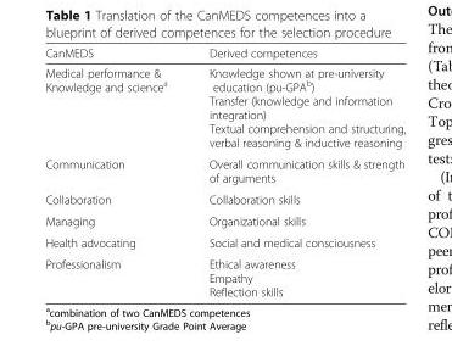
<table><thead><tr><td>CanMEDS</td><td>Derived competences</td></tr></thead><tbody><tr><td>Medical performance &amp; Knowledge and science<sup>a</sup></td><td>Knowledge shown at pre-university education (pu-GPA<sup>b</sup>) Transfer (knowledge and information integration) Textual comprehension and structuring, verbal reasoning &amp; inductive reasoning</td></tr><tr><td>Communication</td><td>Overall communication skills &amp; strength of arguments</td></tr><tr><td>Collaboration</td><td>Collaboration skills</td></tr><tr><td>Managing</td><td>Organizational skills</td></tr><tr><td>Health advocating</td><td>Social and medical consciousness</td></tr><tr><td>Professionalism</td><td>Ethical awareness Empathy Reflection skills</td></tr></tbody></table>